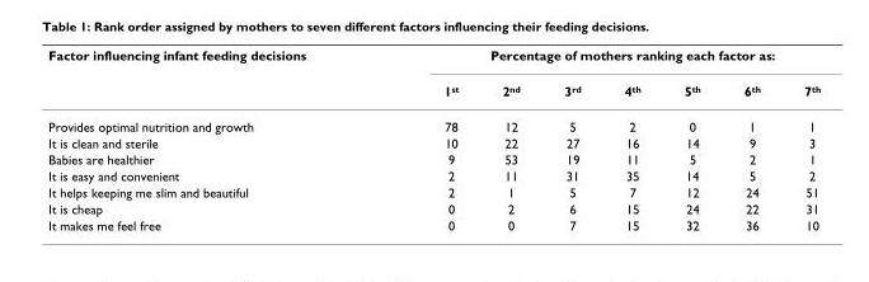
<table><thead><tr><td rowspan="2">Factor influencing infant feeding decisions</td><td colspan="7">Percentage of mothers ranking each factor as:</td></tr><tr><td>1<sup>st</sup></td><td>2<sup>nd</sup></td><td>3<sup>rd</sup></td><td>4<sup>th</sup></td><td>5<sup>th</sup></td><td>6<sup>th</sup></td><td>7<sup>th</sup></td></tr></thead><tbody><tr><td>Provides optimal nutrition and growth</td><td>78</td><td>12</td><td>5</td><td>2</td><td>0</td><td>1</td><td>1</td></tr><tr><td>It is clean and sterile</td><td>10</td><td>22</td><td>27</td><td>16</td><td>14</td><td>9</td><td>3</td></tr><tr><td>Babies are healthier</td><td>9</td><td>53</td><td>19</td><td>11</td><td>5</td><td>2</td><td>1</td></tr><tr><td>It is easy and convenient</td><td>2</td><td>11</td><td>31</td><td>35</td><td>14</td><td>5</td><td>2</td></tr><tr><td>It helps keeping me slim and beautiful</td><td>2</td><td>1</td><td>5</td><td>7</td><td>12</td><td>24</td><td>51</td></tr><tr><td>It is cheap</td><td>0</td><td>2</td><td>6</td><td>15</td><td>24</td><td>22</td><td>31</td></tr><tr><td>It makes me feel free</td><td>0</td><td>0</td><td>7</td><td>15</td><td>32</td><td>36</td><td>10</td></tr></tbody></table>